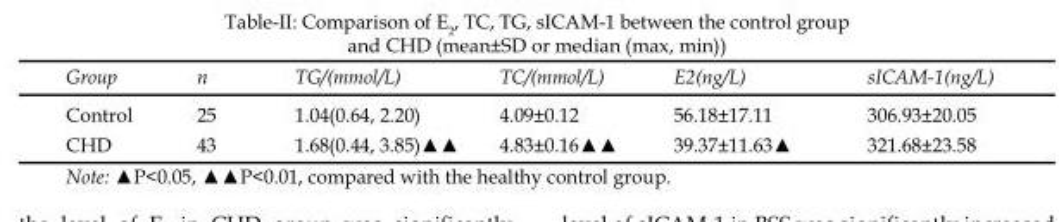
<table><thead><tr><td>Group</td><td>n</td><td>TG/(mmol/L)</td><td>TC/(mmol/L)</td><td>E<sub>2</sub>(ng/L)</td><td>sICAM-1(ng/L)</td></tr></thead><tbody><tr><td>Control</td><td>25</td><td>1.04(0.64, 2.20)</td><td>4.09±0.12</td><td>56.18±17.11</td><td>306.93±20.05</td></tr><tr><td>CHD</td><td>43</td><td>1.68(0.44, 3.85)▲▲</td><td>4.83±0.16▲▲</td><td>39.37±11.63▲</td><td>321.68±23.58</td></tr></tbody></table>